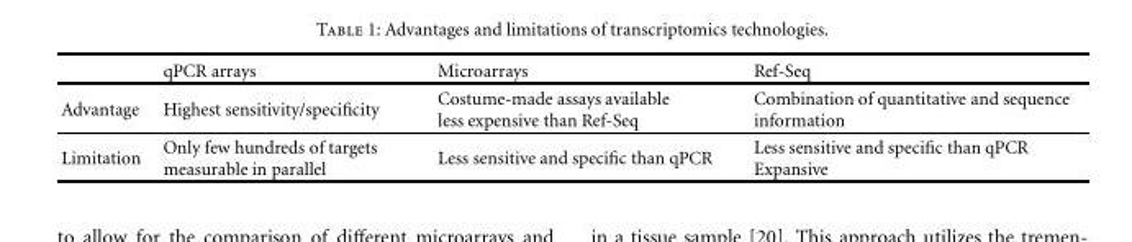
<table><thead><tr><td></td><td>qPCR arrays</td><td>Microarrays</td><td>Ref-Seq</td></tr></thead><tbody><tr><td>Advantage</td><td>Highest sensitivity/specificity</td><td>Costume-made assays available less expensive than Ref-Seq</td><td>Combination of quantitative and sequence information</td></tr><tr><td>Limitation</td><td>Only few hundreds of targets measurable in parallel</td><td>Less sensitive and specific than qPCR</td><td>Less sensitive and specific than qPCR Expansive</td></tr></tbody></table>